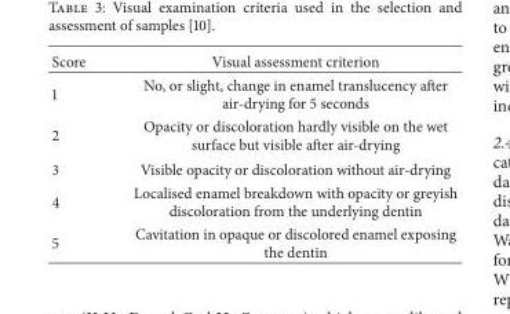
<table><thead><tr><td>Score</td><td>Visual assessment criterion</td></tr></thead><tbody><tr><td>1</td><td>No, or slight, change in enamel translucency after air-drying for 5 seconds</td></tr><tr><td>2</td><td>Opacity or discoloration hardly visible on the wet surface but visible after air-drying</td></tr><tr><td>3</td><td>Visible opacity or discoloration without air-drying</td></tr><tr><td>4</td><td>Localised enamel breakdown with opacity or greyish discoloration from the underlying dentin</td></tr><tr><td>5</td><td>Cavitation in opaque or discolored enamel exposing the dentin</td></tr></tbody></table>